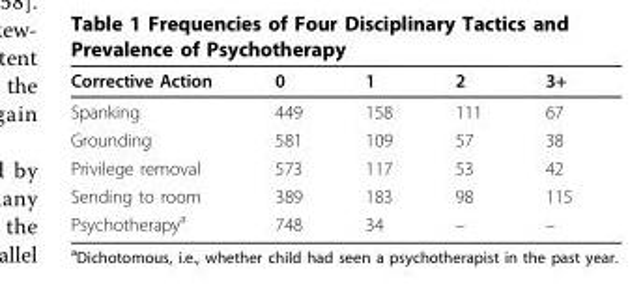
<table><thead><tr><td>Corrective Action</td><td>0</td><td>1</td><td>2</td><td>3+</td></tr></thead><tbody><tr><td>Spanking</td><td>449</td><td>158</td><td>111</td><td>67</td></tr><tr><td>Grounding</td><td>581</td><td>109</td><td>57</td><td>38</td></tr><tr><td>Privilege removal</td><td>573</td><td>117</td><td>53</td><td>42</td></tr><tr><td>Sending to room</td><td>389</td><td>183</td><td>98</td><td>115</td></tr><tr><td>Psychotherapy<sup>a</sup></td><td>748</td><td>34</td><td>–</td><td>–</td></tr></tbody></table>